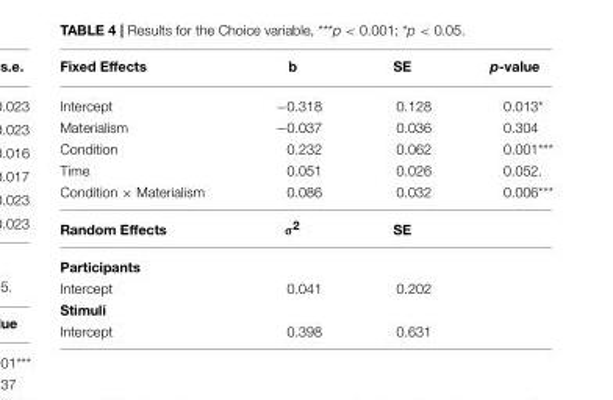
<table><thead><tr><td>Fixed Effects</td><td>b</td><td>SE</td><td>p-value</td></tr></thead><tbody><tr><td>Intercept</td><td>−0.318</td><td>0.128</td><td>0.013*</td></tr><tr><td>Materialism</td><td>−0.037</td><td>0.036</td><td>0.304</td></tr><tr><td>Condition</td><td>0.232</td><td>0.062</td><td>0.001***</td></tr><tr><td>Time</td><td>0.051</td><td>0.026</td><td>0.052.</td></tr><tr><td>Condition × Materialism</td><td>0.086</td><td>0.032</td><td>0.006***</td></tr><tr><td>Random Effects</td><td>σ<sup>2</sup></td><td>SE</td><td></td></tr><tr><td colspan="4">Participants</td></tr><tr><td>Intercept</td><td>0.041</td><td>0.202</td><td></td></tr><tr><td colspan="4">Stimuli</td></tr><tr><td>Intercept</td><td>0.398</td><td>0.631</td><td></td></tr></tbody></table>